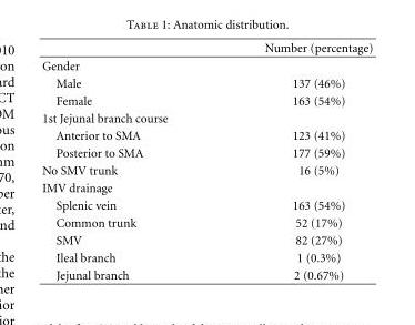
<table><thead><tr><td></td><td>Number (percentage)</td></tr></thead><tbody><tr><td colspan="2">Gender</td></tr><tr><td>Male</td><td>137 (46%)</td></tr><tr><td>Female</td><td>163 (54%)</td></tr><tr><td colspan="2">1st Jejunal branch course</td></tr><tr><td>Anterior to SMA</td><td>123 (41%)</td></tr><tr><td>Posterior to SMA</td><td>177 (59%)</td></tr><tr><td>No SMV trunk</td><td>16 (5%)</td></tr><tr><td colspan="2">IMV drainage</td></tr><tr><td>Splenic vein</td><td>163 (54%)</td></tr><tr><td>Common trunk</td><td>52 (17%)</td></tr><tr><td>SMV</td><td>82 (27%)</td></tr><tr><td>Ileal branch</td><td>1 (0.3%)</td></tr><tr><td>Jejunal branch</td><td>2 (0.67%)</td></tr></tbody></table>